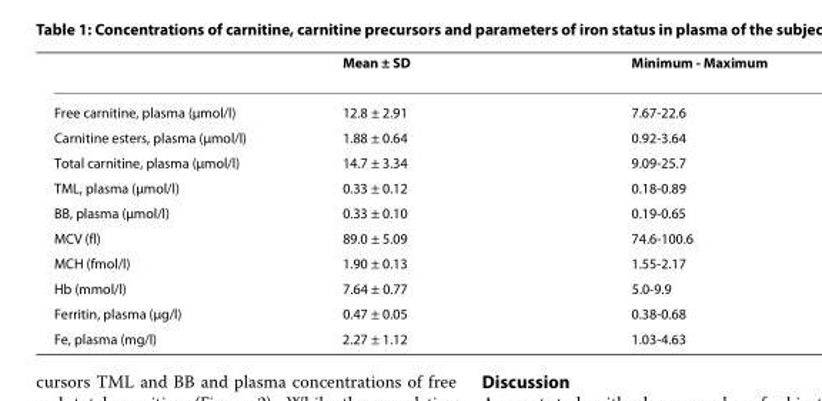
<table><thead><tr><td></td><td>Mean ± SD</td><td>Minimum - Maximum</td></tr></thead><tbody><tr><td>Free carnitine, plasma (μmol/l)</td><td>12.8 ± 2.91</td><td>7.67-22.6</td></tr><tr><td>Carnitine esters, plasma (μmol/l)</td><td>1.88 ± 0.64</td><td>0.92-3.64</td></tr><tr><td>Total carnitine, plasma (μmol/l)</td><td>14.7 ± 3.34</td><td>9.09-25.7</td></tr><tr><td>TML, plasma (μmol/l)</td><td>0.33 ± 0.12</td><td>0.18-0.89</td></tr><tr><td>BB, plasma (μmol/l)</td><td>0.33 ± 0.10</td><td>0.19-0.65</td></tr><tr><td>MCV (fl)</td><td>89.0 ± 5.09</td><td>74.6-100.6</td></tr><tr><td>MCH (fmol/l)</td><td>1.90 ± 0.13</td><td>1.55-2.17</td></tr><tr><td>Hb (mmol/l)</td><td>7.64 ± 0.77</td><td>5.0-9.9</td></tr><tr><td>Ferritin, plasma (μg/l)</td><td>0.47 ± 0.05</td><td>0.38-0.68</td></tr><tr><td>Fe, plasma (mg/l)</td><td>2.27 ± 1.12</td><td>1.03-4.63</td></tr></tbody></table>